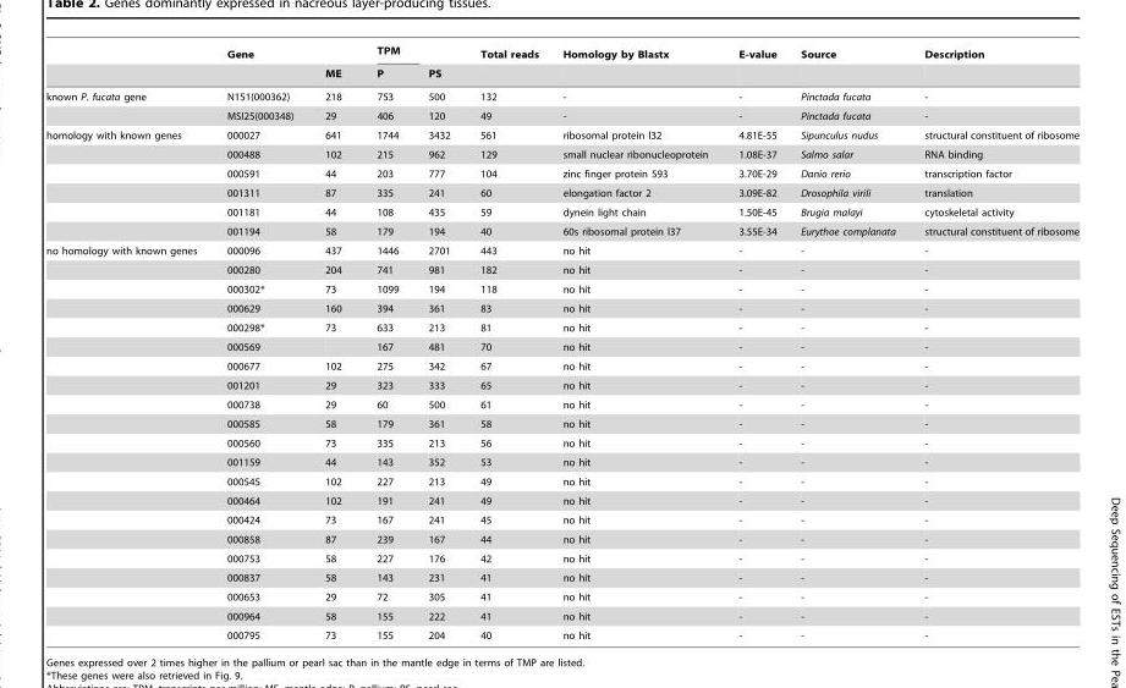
<table><thead><tr><td rowspan="2"></td><td rowspan="2">Gene</td><td rowspan="2">ME</td><td rowspan="2">TPM P</td><td rowspan="2">PS</td><td rowspan="2">Total reads</td><td rowspan="2">Homology by Blastx</td><td rowspan="2">E-value</td><td rowspan="2">Source</td><td rowspan="2">Description</td></tr><tr></tr></thead><tbody><tr><td rowspan="2">known P. fucata gene</td><td>N151(000362)</td><td>218</td><td>753</td><td>500</td><td>132</td><td>-</td><td>-</td><td>Pinctada fucata</td><td>-</td></tr><tr><td>MSI25(000348)</td><td>29</td><td>406</td><td>120</td><td>49</td><td>-</td><td>-</td><td>Pinctada fucata</td><td>-</td></tr><tr><td rowspan="6">homology with known genes</td><td>000027</td><td>641</td><td>1744</td><td>3432</td><td>561</td><td>ribosomal protein l32</td><td>4.81E-55</td><td>Sipunculus nudus</td><td>structural constituent of ribosome</td></tr><tr><td>000488</td><td>102</td><td>215</td><td>962</td><td>129</td><td>small nuclear ribonucleoprotein</td><td>1.08E-37</td><td>Salmo salar</td><td>RNA binding</td></tr><tr><td>000591</td><td>44</td><td>203</td><td>777</td><td>104</td><td>zinc finger protein 593</td><td>3.70E-29</td><td>Danio rerio</td><td>transcription factor</td></tr><tr><td>001311</td><td>87</td><td>335</td><td>241</td><td>60</td><td>elongation factor 2</td><td>3.09E-82</td><td>Drosophila virili</td><td>translation</td></tr><tr><td>001181</td><td>44</td><td>108</td><td>435</td><td>59</td><td>dynein light chain</td><td>1.50E-45</td><td>Brugia malayi</td><td>cytoskeletal activity</td></tr><tr><td>001194</td><td>58</td><td>179</td><td>194</td><td>40</td><td>60s ribosomal protein l37</td><td>3.55E-34</td><td>Eurythoe complanata</td><td>structural constituent of ribosome</td></tr><tr><td rowspan="21">no homology with known genes</td><td>000096</td><td>437</td><td>1446</td><td>2701</td><td>443</td><td>no hit</td><td>-</td><td>-</td><td>-</td></tr><tr><td>000280</td><td>204</td><td>741</td><td>981</td><td>182</td><td>no hit</td><td>-</td><td>-</td><td>-</td></tr><tr><td>000302*</td><td>73</td><td>1099</td><td>194</td><td>118</td><td>no hit</td><td>-</td><td>-</td><td>-</td></tr><tr><td>000629</td><td>160</td><td>394</td><td>361</td><td>83</td><td>no hit</td><td>-</td><td>-</td><td>-</td></tr><tr><td>000298*</td><td>73</td><td>633</td><td>213</td><td>81</td><td>no hit</td><td>-</td><td>-</td><td>-</td></tr><tr><td>000569</td><td></td><td>167</td><td>481</td><td>70</td><td>no hit</td><td>-</td><td>-</td><td>-</td></tr><tr><td>000677</td><td>102</td><td>275</td><td>342</td><td>67</td><td>no hit</td><td>-</td><td>-</td><td>-</td></tr><tr><td>001201</td><td>29</td><td>323</td><td>333</td><td>65</td><td>no hit</td><td>-</td><td>-</td><td>-</td></tr><tr><td>000738</td><td>29</td><td>60</td><td>500</td><td>61</td><td>no hit</td><td>-</td><td>-</td><td>-</td></tr><tr><td>000585</td><td>58</td><td>179</td><td>361</td><td>58</td><td>no hit</td><td>-</td><td>-</td><td>-</td></tr><tr><td>000560</td><td>73</td><td>335</td><td>213</td><td>56</td><td>no hit</td><td>-</td><td>-</td><td>-</td></tr><tr><td>001159</td><td>44</td><td>143</td><td>352</td><td>53</td><td>no hit</td><td>-</td><td>-</td><td>-</td></tr><tr><td>000545</td><td>102</td><td>227</td><td>213</td><td>49</td><td>no hit</td><td>-</td><td>-</td><td>-</td></tr><tr><td>000464</td><td>102</td><td>191</td><td>241</td><td>49</td><td>no hit</td><td>-</td><td>-</td><td>-</td></tr><tr><td>000424</td><td>73</td><td>167</td><td>241</td><td>45</td><td>no hit</td><td>-</td><td>-</td><td>-</td></tr><tr><td>000858</td><td>87</td><td>239</td><td>167</td><td>44</td><td>no hit</td><td>-</td><td>-</td><td>-</td></tr><tr><td>000753</td><td>58</td><td>227</td><td>176</td><td>42</td><td>no hit</td><td>-</td><td>-</td><td>-</td></tr><tr><td>000837</td><td>58</td><td>143</td><td>231</td><td>41</td><td>no hit</td><td>-</td><td>-</td><td>-</td></tr><tr><td>000653</td><td>29</td><td>72</td><td>305</td><td>41</td><td>no hit</td><td>-</td><td>-</td><td>-</td></tr><tr><td>000964</td><td>58</td><td>155</td><td>222</td><td>41</td><td>no hit</td><td>-</td><td>-</td><td>-</td></tr><tr><td>000795</td><td>73</td><td>155</td><td>204</td><td>40</td><td>no hit</td><td>-</td><td>-</td><td>-</td></tr></tbody></table>